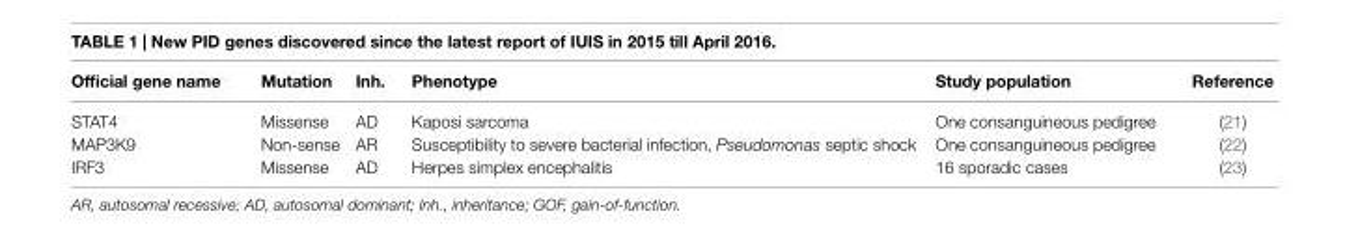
<table><thead><tr><td>Official gene name</td><td>Mutation</td><td>inh.</td><td>Phenotype</td><td>study population</td><td>reference</td></tr></thead><tbody><tr><td>STAT4</td><td>Missense</td><td>AD</td><td>Kaposi sarcoma</td><td>One consanguineous pedigree</td><td>(21)</td></tr><tr><td>MAP3K9</td><td>Non-sense</td><td>AR</td><td>Susceptibility to severe bacterial infection, Pseudomonas septic shock</td><td>One consanguineous pedigree</td><td>(22)</td></tr><tr><td>IRF3</td><td>Missense</td><td>AD</td><td>Herpes simplex encephalitis</td><td>16 sporadic cases</td><td>(23)</td></tr></tbody></table>